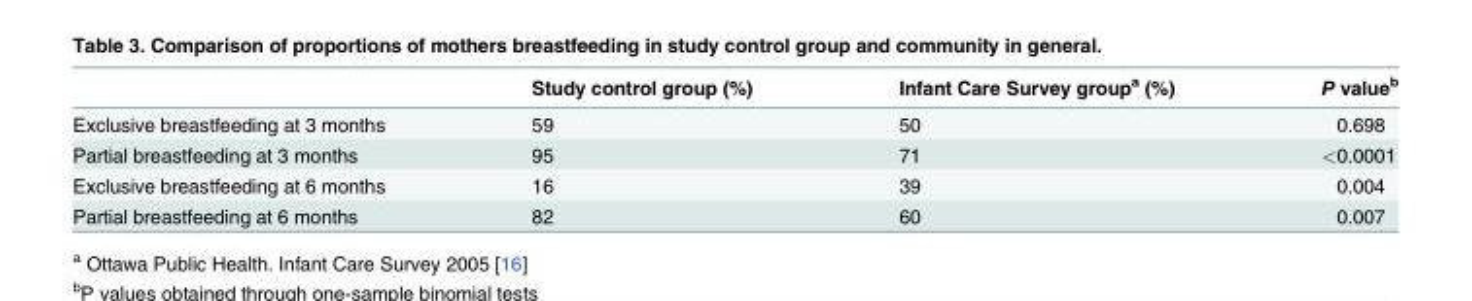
<table><thead><tr><td></td><td>Study control group (%)</td><td>Infant Care Survey group<sup>a</sup> (%)</td><td>P value<sup>b</sup></td></tr></thead><tbody><tr><td>Exclusive breastfeeding at 3 months</td><td>59</td><td>50</td><td>0.698</td></tr><tr><td>Partial breastfeeding at 3 months</td><td>95</td><td>71</td><td>&lt;0.0001</td></tr><tr><td>Exclusive breastfeeding at 6 months</td><td>16</td><td>39</td><td>0.004</td></tr><tr><td>Partial breastfeeding at 6 months</td><td>82</td><td>60</td><td>0.007</td></tr></tbody></table>